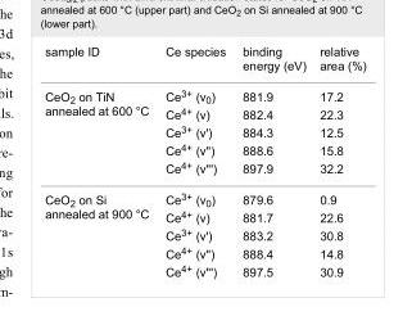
<table><tbody><tr><td>sample ID</td><td>Ce species</td><td>binding energy (eV)</td><td>relative area (%)</td></tr><tr><td rowspan="5">CeO<sub>2</sub> on TiN annealed at 600 °C</td><td>Ce<sup>3+</sup> (v<sub>0</sub>)</td><td>881.9</td><td>17.2</td></tr><tr><td>Ce<sup>4+</sup> (v)</td><td>882.4</td><td>22.3</td></tr><tr><td>Ce<sup>3+</sup> (v&#x27;)</td><td>884.3</td><td>12.5</td></tr><tr><td>Ce<sup>4+</sup> (v&#x27;&#x27;)</td><td>888.6</td><td>15.8</td></tr><tr><td>Ce<sup>4+</sup> (v&#x27;&#x27;&#x27;)</td><td>897.9</td><td>32.2</td></tr><tr><td rowspan="5">CeO<sub>2</sub> on Si annealed at 900 °C</td><td>Ce<sup>3+</sup> (v<sub>0</sub>)</td><td>879.6</td><td>0.9</td></tr><tr><td>Ce<sup>4+</sup> (v)</td><td>881.7</td><td>22.6</td></tr><tr><td>Ce<sup>3+</sup> (v&#x27;)</td><td>883.2</td><td>30.8</td></tr><tr><td>Ce<sup>4+</sup> (v&#x27;&#x27;)</td><td>888.4</td><td>14.8</td></tr><tr><td>Ce<sup>4+</sup> (v&#x27;&#x27;&#x27;)</td><td>897.5</td><td>30.9</td></tr></tbody></table>